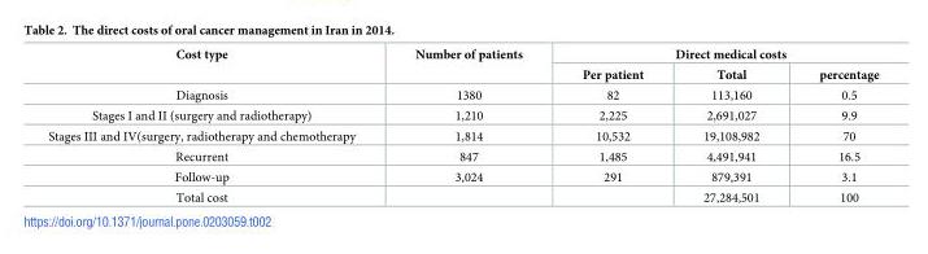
<table><thead><tr><td rowspan="2">Cost type</td><td rowspan="2">Number of patients</td><td colspan="3">Direct medical costs</td></tr><tr><td>Per patient</td><td>Total</td><td>percentage</td></tr></thead><tbody><tr><td>Diagnosis</td><td>1380</td><td>82</td><td>113,160</td><td>0.5</td></tr><tr><td>Stages I and II (surgery and radiotherapy)</td><td>1,210</td><td>2,225</td><td>2,691,027</td><td>9.9</td></tr><tr><td>Stages III and IV(surgery, radiotherapy and chemotherapy</td><td>1,814</td><td>10,532</td><td>19,108,982</td><td>70</td></tr><tr><td>Recurrent</td><td>847</td><td>1,485</td><td>4,491,941</td><td>16.5</td></tr><tr><td>Follow-up</td><td>3,024</td><td>291</td><td>879,391</td><td>3.1</td></tr><tr><td>Total cost</td><td></td><td></td><td>27,284,501</td><td>100</td></tr></tbody></table>